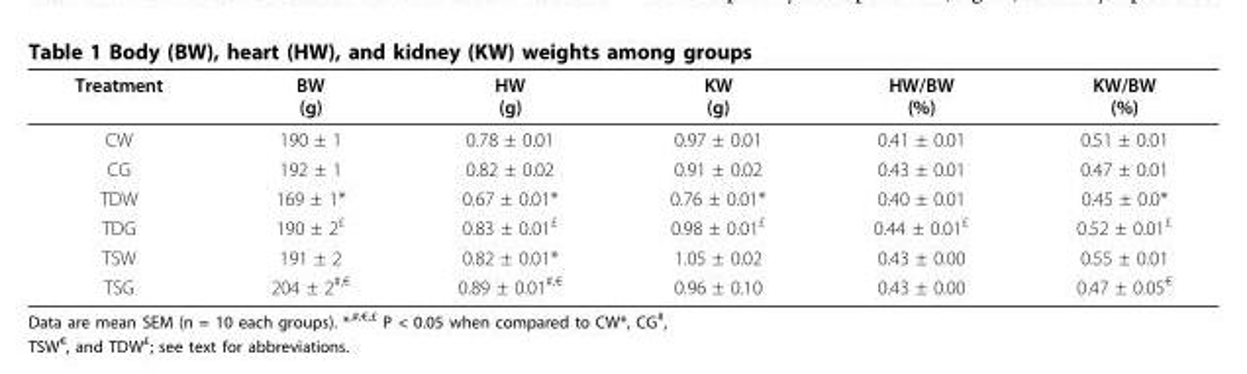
<table><thead><tr><td>Treatment</td><td>BW (g)</td><td>HW (g)</td><td>KW (g)</td><td>HW/BW (%)</td><td>KW/BW (%)</td></tr></thead><tbody><tr><td>CW</td><td>190 ± 1</td><td>0.78 ± 0.01</td><td>0.97 ± 0.01</td><td>0.41 ± 0.01</td><td>0.51 ± 0.01</td></tr><tr><td>CG</td><td>192 ± 1</td><td>0.82 ± 0.02</td><td>0.91 ± 0.02</td><td>0.43 ± 0.01</td><td>0.47 ± 0.01</td></tr><tr><td>TDW</td><td>169 ± 1*</td><td>0.67 ± 0.01*</td><td>0.76 ± 0.01*</td><td>0.40 ± 0.01</td><td>0.45 ± 0.0*</td></tr><tr><td>TDG</td><td>190 ± 2<sup>£</sup></td><td>0.83 ± 0.01<sup>£</sup></td><td>0.98 ± 0.01<sup>£</sup></td><td>0.44 ± 0.01<sup>£</sup></td><td>0.52 ± 0.01<sup>£</sup></td></tr><tr><td>TSW</td><td>191 ± 2</td><td>0.82 ± 0.01*</td><td>1.05 ± 0.02</td><td>0.43 ± 0.00</td><td>0.55 ± 0.01</td></tr><tr><td>TSG</td><td>204 ± 2<sup>#,€</sup></td><td>0.89 ± 0.01<sup>#,€</sup></td><td>0.96 ± 0.10</td><td>0.43 ± 0.00</td><td>0.47 ± 0.05<sup>€</sup></td></tr></tbody></table>